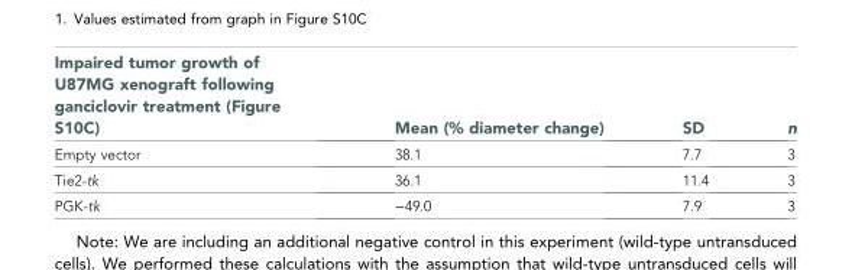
<table><thead><tr><td>Impaired tumor growth of U87MG xenograft following ganciclovir treatment (Figure S10C)</td><td>Mean (% diameter change)</td><td>SD</td><td>n</td></tr></thead><tbody><tr><td>Empty vector</td><td>38.1</td><td>7.7</td><td>3</td></tr><tr><td>Tie2-tk</td><td>36.1</td><td>11.4</td><td>3</td></tr><tr><td>PGK-tk</td><td>−49.0</td><td>7.9</td><td>3</td></tr></tbody></table>